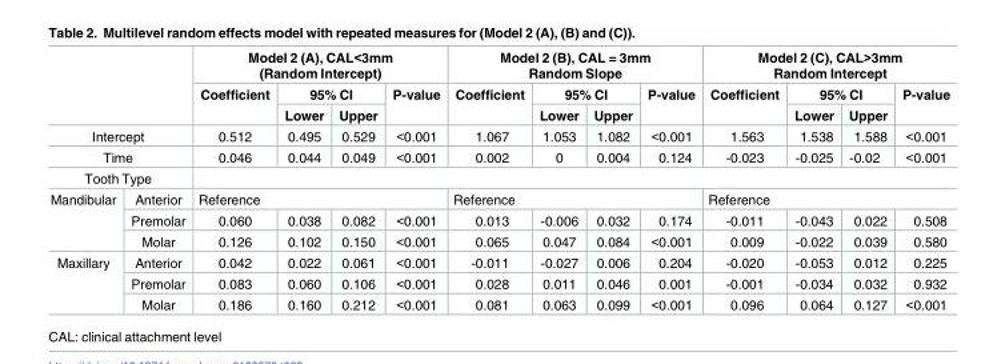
<table><thead><tr><td rowspan="3"></td><td rowspan="3"></td><td colspan="4">Model 2 (A), CAL&lt;3mm (Random Intercept)</td><td colspan="4">Model 2 (B), CAL = 3mm Random Slope</td><td colspan="4">Model 2 (C), CAL&gt;3mm Random Intercept</td></tr><tr><td rowspan="2">Coefficient</td><td colspan="2">95% CI</td><td rowspan="2">P-value</td><td rowspan="2">Coefficient</td><td colspan="2">95% CI</td><td rowspan="2">P-value</td><td rowspan="2">Coefficient</td><td colspan="2">95% CI</td><td rowspan="2">P-value</td></tr><tr><td>Lower</td><td>Upper</td><td>Lower</td><td>Upper</td><td>Lower</td><td>Upper</td></tr></thead><tbody><tr><td colspan="2">Intercept</td><td>0.512</td><td>0.495</td><td>0.529</td><td>&lt;0.001</td><td>1.067</td><td>1.053</td><td>1.082</td><td>&lt;0.001</td><td>1.563</td><td>1.538</td><td>1.588</td><td>&lt;0.001</td></tr><tr><td colspan="2">Time</td><td>0.046</td><td>0.044</td><td>0.049</td><td>&lt;0.001</td><td>0.002</td><td>0</td><td>0.004</td><td>0.124</td><td>-0.023</td><td>-0.025</td><td>-0.02</td><td>&lt;0.001</td></tr><tr><td colspan="14">Tooth Type</td></tr><tr><td rowspan="3">Mandibular</td><td>Anterior</td><td colspan="4">Reference</td><td colspan="4">Reference</td><td colspan="4">Reference</td></tr><tr><td>Premolar</td><td>0.060</td><td>0.038</td><td>0.082</td><td>&lt;0.001</td><td>0.013</td><td>-0.006</td><td>0.032</td><td>0.174</td><td>-0.011</td><td>-0.043</td><td>0.022</td><td>0.508</td></tr><tr><td>Molar</td><td>0.126</td><td>0.102</td><td>0.150</td><td>&lt;0.001</td><td>0.065</td><td>0.047</td><td>0.084</td><td>&lt;0.001</td><td>0.009</td><td>-0.022</td><td>0.039</td><td>0.580</td></tr><tr><td rowspan="3">Maxillary</td><td>Anterior</td><td>0.042</td><td>0.022</td><td>0.061</td><td>&lt;0.001</td><td>-0.011</td><td>-0.027</td><td>0.006</td><td>0.204</td><td>-0.020</td><td>-0.053</td><td>0.012</td><td>0.225</td></tr><tr><td>Premolar</td><td>0.083</td><td>0.060</td><td>0.106</td><td>&lt;0.001</td><td>0.028</td><td>0.011</td><td>0.046</td><td>0.001</td><td>-0.001</td><td>-0.034</td><td>0.032</td><td>0.932</td></tr><tr><td>Molar</td><td>0.186</td><td>0.160</td><td>0.212</td><td>&lt;0.001</td><td>0.081</td><td>0.063</td><td>0.099</td><td>&lt;0.001</td><td>0.096</td><td>0.064</td><td>0.127</td><td>&lt;0.001</td></tr></tbody></table>